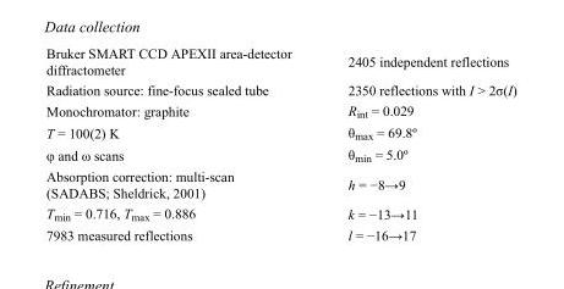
<table><tbody><tr><td>Bruker SMART CCD APEXII area-detector diffractometer</td><td>2405 independent reflections</td></tr><tr><td>Radiation source: fine-focus sealed tube</td><td>2350 reflections with I &gt; 2σ(I)</td></tr><tr><td>Monochromator: graphite</td><td>R<sub>int</sub> = 0.029</td></tr><tr><td>T = 100(2) K</td><td>θ<sub>max</sub> = 69.8º</td></tr><tr><td>φ and ω scans</td><td>θ<sub>min</sub> = 5.0º</td></tr><tr><td>Absorption correction: multi-scan (SADABS; Sheldrick, 2001)</td><td>h = −8→9</td></tr><tr><td>T<sub>min</sub> = 0.716, T<sub>max</sub> = 0.886</td><td>k = −13→11</td></tr><tr><td>7983 measured reflections</td><td>l = −16→17</td></tr></tbody></table>